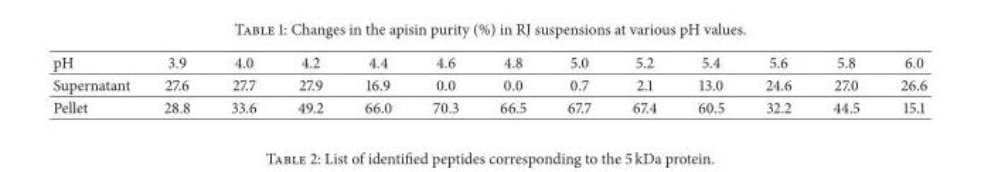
<table><tbody><tr><td>pH</td><td>3.9</td><td>4.0</td><td>4.2</td><td>4.4</td><td>4.6</td><td>4.8</td><td>5.0</td><td>5.2</td><td>5.4</td><td>5.6</td><td>5.8</td><td>6.0</td></tr><tr><td>Supernatant</td><td>27.6</td><td>27.7</td><td>27.9</td><td>16.9</td><td>0.0</td><td>0.0</td><td>0.7</td><td>2.1</td><td>13.0</td><td>24.6</td><td>27.0</td><td>26.6</td></tr><tr><td>Pellet</td><td>28.8</td><td>33.6</td><td>49.2</td><td>66.0</td><td>70.3</td><td>66.5</td><td>67.7</td><td>67.4</td><td>60.5</td><td>32.2</td><td>44.5</td><td>15.1</td></tr></tbody></table>